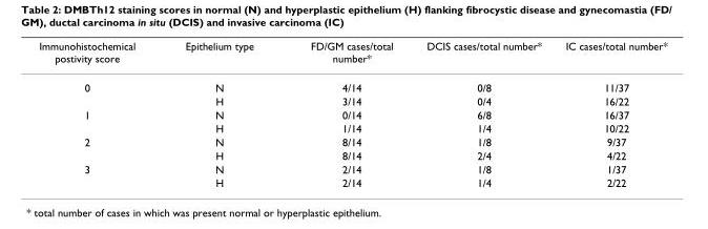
<table><thead><tr><td>Immunohistochemical postivity score</td><td>Epithelium type</td><td>FD/GM cases/total number*</td><td>DCIS cases/total number*</td><td>IC cases/total number*</td></tr></thead><tbody><tr><td rowspan="2">0</td><td>N</td><td>4/14</td><td>0/8</td><td>11/37</td></tr><tr><td>H</td><td>3/14</td><td>0/4</td><td>16/22</td></tr><tr><td rowspan="2">1</td><td>N</td><td>0/14</td><td>6/8</td><td>16/37</td></tr><tr><td>H</td><td>1/14</td><td>1/4</td><td>10/22</td></tr><tr><td rowspan="2">2</td><td>N</td><td>8/14</td><td>1/8</td><td>9/37</td></tr><tr><td>H</td><td>8/14</td><td>2/4</td><td>4/22</td></tr><tr><td rowspan="2">3</td><td>N</td><td>2/14</td><td>1/8</td><td>1/37</td></tr><tr><td>H</td><td>2/14</td><td>1/4</td><td>2/22</td></tr></tbody></table>